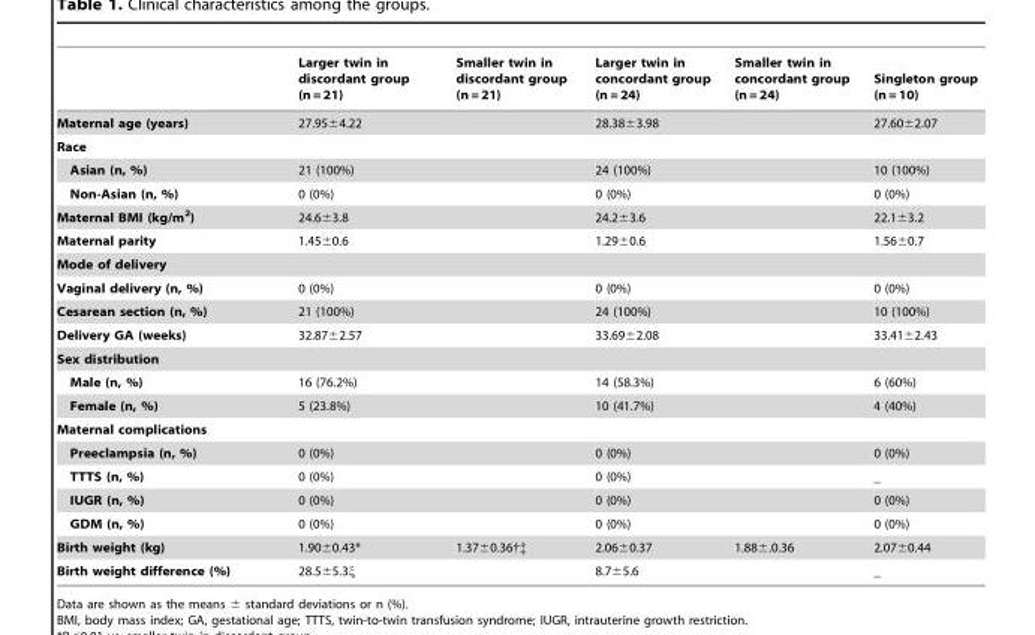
<table><thead><tr><td></td><td>Larger twin in discordant group (n = 21)</td><td>Smaller twin in discordant group (n = 21)</td><td>Larger twin in concordant group (n = 24)</td><td>Smaller twin in concordant group (n = 24)</td><td>Singleton group (n = 10)</td></tr></thead><tbody><tr><td>Maternal age (years)</td><td colspan="2">27.95±4.22</td><td colspan="2">28.38±3.98</td><td>27.60±2.07</td></tr><tr><td colspan="6">Race</td></tr><tr><td>Asian (n, %)</td><td colspan="2">21 (100%)</td><td colspan="2">24 (100%)</td><td>10 (100%)</td></tr><tr><td>Non-Asian (n, %)</td><td colspan="2">0 (0%)</td><td colspan="2">0 (0%)</td><td>0 (0%)</td></tr><tr><td>Maternal BMI (kg/m<sup>2</sup>)</td><td colspan="2">24.6±3.8</td><td colspan="2">24.2±3.6</td><td>22.1±3.2</td></tr><tr><td>Maternal parity</td><td colspan="2">1.45±0.6</td><td colspan="2">1.29±0.6</td><td>1.56±0.7</td></tr><tr><td colspan="6">Mode of delivery</td></tr><tr><td>Vaginal delivery (n, %)</td><td colspan="2">0 (0%)</td><td colspan="2">0 (0%)</td><td>0 (0%)</td></tr><tr><td>Cesarean section (n, %)</td><td colspan="2">21 (100%)</td><td colspan="2">24 (100%)</td><td>10 (100%)</td></tr><tr><td>Delivery GA (weeks)</td><td colspan="2">32.87±2.57</td><td colspan="2">33.69±2.08</td><td>33.41±2.43</td></tr><tr><td colspan="6">Sex distribution</td></tr><tr><td>Male (n, %)</td><td colspan="2">16 (76.2%)</td><td colspan="2">14 (58.3%)</td><td>6 (60%)</td></tr><tr><td>Female (n, %)</td><td colspan="2">5 (23.8%)</td><td colspan="2">10 (41.7%)</td><td>4 (40%)</td></tr><tr><td colspan="6">Maternal complications</td></tr><tr><td>Preeclampsia (n, %)</td><td colspan="2">0 (0%)</td><td colspan="2">0 (0%)</td><td>0 (0%)</td></tr><tr><td>TTTS (n, %)</td><td colspan="2">0 (0%)</td><td colspan="2">0 (0%)</td><td>_</td></tr><tr><td>IUGR (n, %)</td><td colspan="2">0 (0%)</td><td colspan="2">0 (0%)</td><td>0 (0%)</td></tr><tr><td>GDM (n, %)</td><td colspan="2">0 (0%)</td><td colspan="2">0 (0%)</td><td>0 (0%)</td></tr><tr><td>Birth weight (kg)</td><td>1.90±0.43*</td><td>1.37±0.36†‡</td><td>2.06±0.37</td><td>1.88±.0.36</td><td>2.07±0.44</td></tr><tr><td>Birth weight difference (%)</td><td colspan="2">28.5±5.3ξ</td><td colspan="2">8.7±5.6</td><td>_</td></tr></tbody></table>